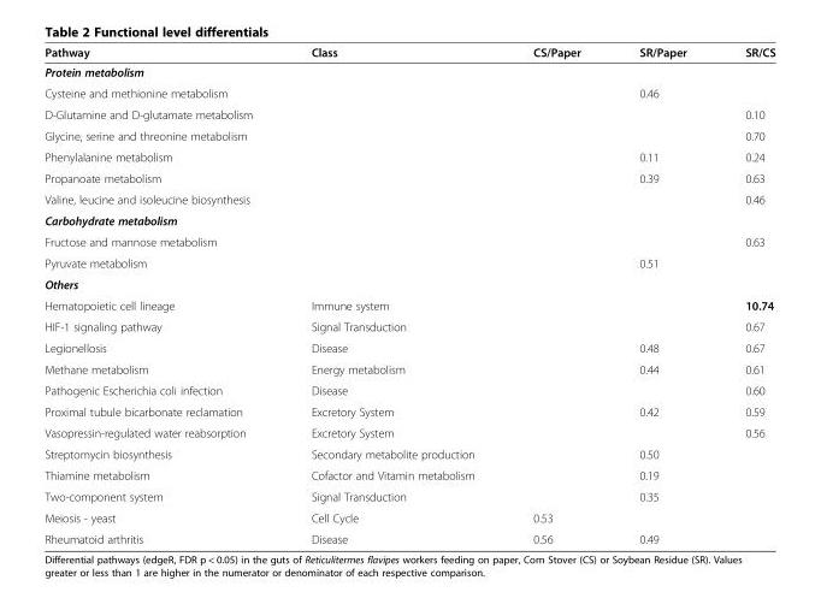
<table><thead><tr><td>Pathway</td><td>Class</td><td>CS/Paper</td><td>SR/Paper</td><td>SR/CS</td></tr></thead><tbody><tr><td colspan="5">Protein metabolism</td></tr><tr><td>Cysteine and methionine metabolism</td><td></td><td></td><td>0.46</td><td></td></tr><tr><td>D-Glutamine and D-glutamate metabolism</td><td></td><td></td><td></td><td>0.10</td></tr><tr><td>Glycine, serine and threonine metabolism</td><td></td><td></td><td></td><td>0.70</td></tr><tr><td>Phenylalanine metabolism</td><td></td><td></td><td>0.11</td><td>0.24</td></tr><tr><td>Propanoate metabolism</td><td></td><td></td><td>0.39</td><td>0.63</td></tr><tr><td>Valine, leucine and isoleucine biosynthesis</td><td></td><td></td><td></td><td>0.46</td></tr><tr><td colspan="5">Carbohydrate metabolism</td></tr><tr><td>Fructose and mannose metabolism</td><td></td><td></td><td></td><td>0.63</td></tr><tr><td>Pyruvate metabolism</td><td></td><td></td><td>0.51</td><td></td></tr><tr><td colspan="5">Others</td></tr><tr><td>Hematopoietic cell lineage</td><td>Immune system</td><td></td><td></td><td>10.74</td></tr><tr><td>HIF-1 signaling pathway</td><td>Signal Transduction</td><td></td><td></td><td>0.67</td></tr><tr><td>Legionellosis</td><td>Disease</td><td></td><td>0.48</td><td>0.67</td></tr><tr><td>Methane metabolism</td><td>Energy metabolism</td><td></td><td>0.44</td><td>0.61</td></tr><tr><td>Pathogenic Escherichia coli infection</td><td>Disease</td><td></td><td></td><td>0.60</td></tr><tr><td>Proximal tubule bicarbonate reclamation</td><td>Excretory System</td><td></td><td>0.42</td><td>0.59</td></tr><tr><td>Vasopressin-regulated water reabsorption</td><td>Excretory System</td><td></td><td></td><td>0.56</td></tr><tr><td>Streptomycin biosynthesis</td><td>Secondary metabolite production</td><td></td><td>0.50</td><td></td></tr><tr><td>Thiamine metabolism</td><td>Cofactor and Vitamin metabolism</td><td></td><td>0.19</td><td></td></tr><tr><td>Two-component system</td><td>Signal Transduction</td><td></td><td>0.35</td><td></td></tr><tr><td>Meiosis - yeast</td><td>Cell Cycle</td><td>0.53</td><td></td><td></td></tr><tr><td>Rheumatoid arthritis</td><td>Disease</td><td>0.56</td><td>0.49</td><td></td></tr></tbody></table>